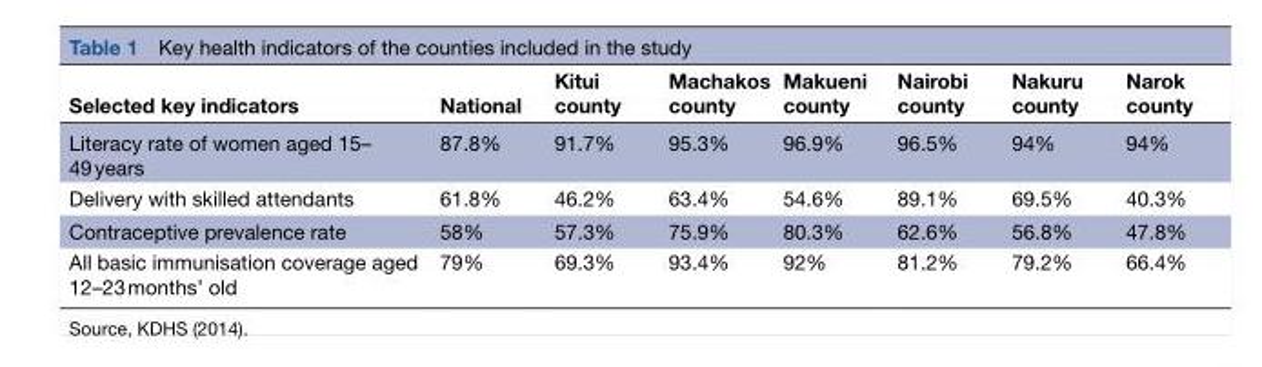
<table><thead><tr><td>Selected key indicators</td><td>National</td><td>Kitui county</td><td>Machakos county</td><td>Makueni county</td><td>Nairobi county</td><td>Nakuru county</td><td>Narok county</td></tr></thead><tbody><tr><td>Literacy rate of women aged 15– 49 years</td><td>87.8%</td><td>91.7%</td><td>95.3%</td><td>96.9%</td><td>96.5%</td><td>94%</td><td>94%</td></tr><tr><td>Delivery with skilled attendants</td><td>61.8%</td><td>46.2%</td><td>63.4%</td><td>54.6%</td><td>89.1%</td><td>69.5%</td><td>40.3%</td></tr><tr><td>Contraceptive prevalence rate</td><td>58%</td><td>57.3%</td><td>75.9%</td><td>80.3%</td><td>62.6%</td><td>56.8%</td><td>47.8%</td></tr><tr><td>All basic immunisation coverage aged 12–23 months’ old</td><td>79%</td><td>69.3%</td><td>93.4%</td><td>92%</td><td>81.2%</td><td>79.2%</td><td>66.4%</td></tr></tbody></table>